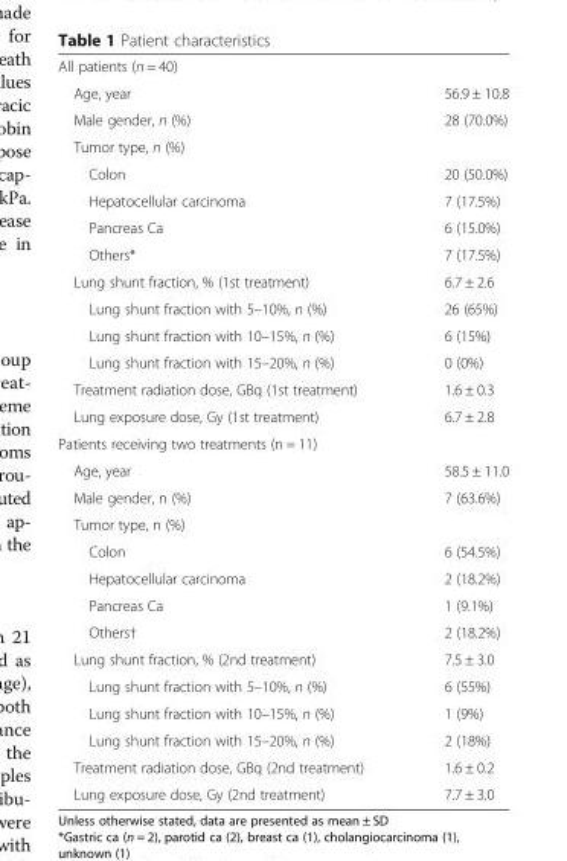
<table><tbody><tr><td colspan="2">All patients (n = 40)</td></tr><tr><td>Age, year</td><td>56.9 ± 10.8</td></tr><tr><td>Male gender, n (%)</td><td>28 (70.0%)</td></tr><tr><td colspan="2">Tumor type, n (%)</td></tr><tr><td>Colon</td><td>20 (50.0%)</td></tr><tr><td>Hepatocellular carcinoma</td><td>7 (17.5%)</td></tr><tr><td>Pancreas Ca</td><td>6 (15.0%)</td></tr><tr><td>Others*</td><td>7 (17.5%)</td></tr><tr><td>Lung shunt fraction, % (1st treatment)</td><td>6.7 ± 2.6</td></tr><tr><td>Lung shunt fraction with 5–10%, n (%)</td><td>26 (65%)</td></tr><tr><td>Lung shunt fraction with 10–15%, n (%)</td><td>6 (15%)</td></tr><tr><td>Lung shunt fraction with 15–20%, n (%)</td><td>0 (0%)</td></tr><tr><td>Treatment radiation dose, GBq (1st treatment)</td><td>1.6 ± 0.3</td></tr><tr><td>Lung exposure dose, Gy (1st treatment)</td><td>6.7 ± 2.8</td></tr><tr><td colspan="2">Patients receiving two treatments (n = 11)</td></tr><tr><td>Age, year</td><td>58.5 ± 11.0</td></tr><tr><td>Male gender, n (%)</td><td>7 (63.6%)</td></tr><tr><td colspan="2">Tumor type, n (%)</td></tr><tr><td>Colon</td><td>6 (54.5%)</td></tr><tr><td>Hepatocellular carcinoma</td><td>2 (18.2%)</td></tr><tr><td>Pancreas Ca</td><td>1 (9.1%)</td></tr><tr><td>Others†</td><td>2 (18.2%)</td></tr><tr><td>Lung shunt fraction, % (2nd treatment)</td><td>7.5 ± 3.0</td></tr><tr><td>Lung shunt fraction with 5–10%, n (%)</td><td>6 (55%)</td></tr><tr><td>Lung shunt fraction with 10–15%, n (%)</td><td>1 (9%)</td></tr><tr><td>Lung shunt fraction with 15–20%, n (%)</td><td>2 (18%)</td></tr><tr><td>Treatment radiation dose, GBq (2nd treatment)</td><td>1.6 ± 0.2</td></tr><tr><td>Lung exposure dose, Gy (2nd treatment)</td><td>7.7 ± 3.0</td></tr></tbody></table>